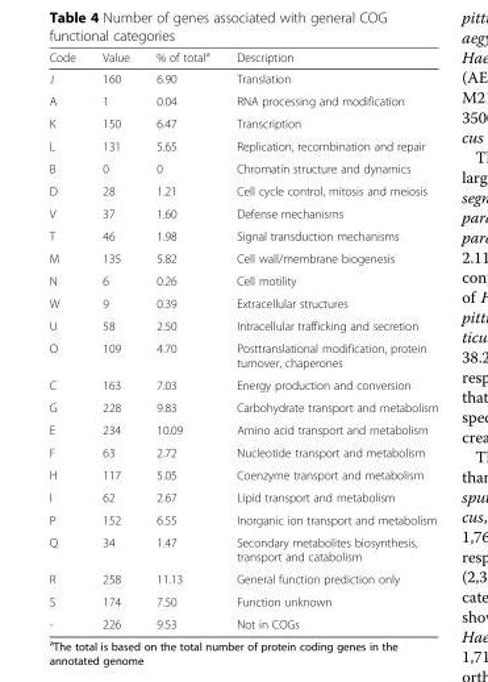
<table><thead><tr><td>Code</td><td>Value</td><td>% of totala</td><td>Description</td></tr></thead><tbody><tr><td>J</td><td>160</td><td>6.90</td><td>Translation</td></tr><tr><td>A</td><td>1</td><td>0.04</td><td>RNA processing and modification</td></tr><tr><td>K</td><td>150</td><td>6.47</td><td>Transcription</td></tr><tr><td>L</td><td>131</td><td>5.65</td><td>Replication, recombination and repair</td></tr><tr><td>B</td><td>0</td><td>0</td><td>Chromatin structure and dynamics</td></tr><tr><td>D</td><td>28</td><td>1.21</td><td>Cell cycle control, mitosis and meiosis</td></tr><tr><td>V</td><td>37</td><td>1.60</td><td>Defense mechanisms</td></tr><tr><td>T</td><td>46</td><td>1.98</td><td>Signal transduction mechanisms</td></tr><tr><td>M</td><td>135</td><td>5.82</td><td>Cell wall/membrane biogenesis</td></tr><tr><td>N</td><td>6</td><td>0.26</td><td>Cell motility</td></tr><tr><td>W</td><td>9</td><td>0.39</td><td>Extracellular structures</td></tr><tr><td>U</td><td>58</td><td>2.50</td><td>Intracellular trafficking and secretion</td></tr><tr><td>O</td><td>109</td><td>4.70</td><td>Posttranslational modification, protein turnover, chaperones</td></tr><tr><td>C</td><td>163</td><td>7.03</td><td>Energy production and conversion</td></tr><tr><td>G</td><td>228</td><td>9.83</td><td>Carbohydrate transport and metabolism</td></tr><tr><td>E</td><td>234</td><td>10.09</td><td>Amino acid transport and metabolism</td></tr><tr><td>F</td><td>63</td><td>2.72</td><td>Nucleotide transport and metabolism</td></tr><tr><td>H</td><td>117</td><td>5.05</td><td>Coenzyme transport and metabolism</td></tr><tr><td>I</td><td>62</td><td>2.67</td><td>Lipid transport and metabolism</td></tr><tr><td>P</td><td>152</td><td>6.55</td><td>Inorganic ion transport and metabolism</td></tr><tr><td>Q</td><td>34</td><td>1.47</td><td>Secondary metabolites biosynthesis, transport and catabolism</td></tr><tr><td>R</td><td>258</td><td>11.13</td><td>General function prediction only</td></tr><tr><td>S</td><td>174</td><td>7.50</td><td>Function unknown</td></tr><tr><td>-</td><td>226</td><td>9.53</td><td>Not in COGs</td></tr></tbody></table>